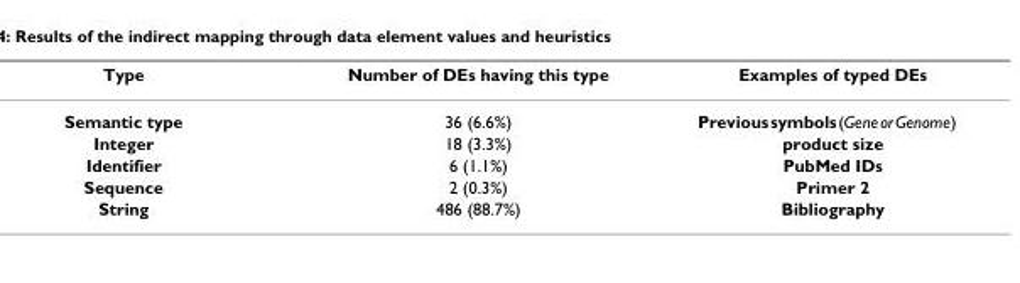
<table><thead><tr><td>Type</td><td>Number of DEs having this type</td><td>Examples of typed DEs</td></tr></thead><tbody><tr><td>Semantic type</td><td>36 (6.6%)</td><td>Previous symbols (Gene or Genome)</td></tr><tr><td>Integer</td><td>18 (3.3%)</td><td>product size</td></tr><tr><td>Identifier</td><td>6 (1.1%)</td><td>PubMed IDs</td></tr><tr><td>Sequence</td><td>2 (0.3%)</td><td>Primer 2</td></tr><tr><td>String</td><td>486 (88.7%)</td><td>Bibliography</td></tr></tbody></table>